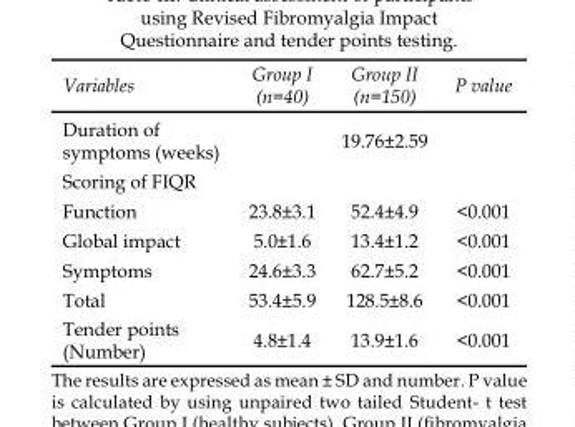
<table><thead><tr><td>Variables</td><td>Group I (n=40)</td><td>Group II (n=150)</td><td>P value</td></tr></thead><tbody><tr><td>Duration of symptoms (weeks)</td><td></td><td>19.76±2.59</td><td></td></tr><tr><td colspan="4">Scoring of FIQR</td></tr><tr><td>Function</td><td>23.8±3.1</td><td>52.4±4.9</td><td>&lt;0.001</td></tr><tr><td>Global impact</td><td>5.0±1.6</td><td>13.4±1.2</td><td>&lt;0.001</td></tr><tr><td>Symptoms</td><td>24.6±3.3</td><td>62.7±5.2</td><td>&lt;0.001</td></tr><tr><td>Total</td><td>53.4±5.9</td><td>128.5±8.6</td><td>&lt;0.001</td></tr><tr><td>Tender points (Number)</td><td>4.8±1.4</td><td>13.9±1.6</td><td>&lt;0.001</td></tr></tbody></table>